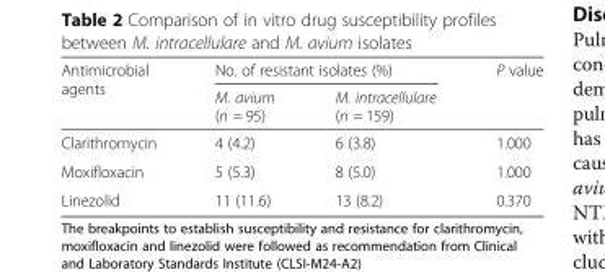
<table><thead><tr><td rowspan="2">Antimicrobial agents</td><td colspan="2">No. of resistant isolates (%)</td><td rowspan="2">P value</td></tr><tr><td>M. avium (n = 95)</td><td>M. intracellulare (n = 159)</td></tr></thead><tbody><tr><td>Clarithromycin</td><td>4 (4.2)</td><td>6 (3.8)</td><td>1.000</td></tr><tr><td>Moxifloxacin</td><td>5 (5.3)</td><td>8 (5.0)</td><td>1.000</td></tr><tr><td>Linezolid</td><td>11 (11.6)</td><td>13 (8.2)</td><td>0.370</td></tr></tbody></table>